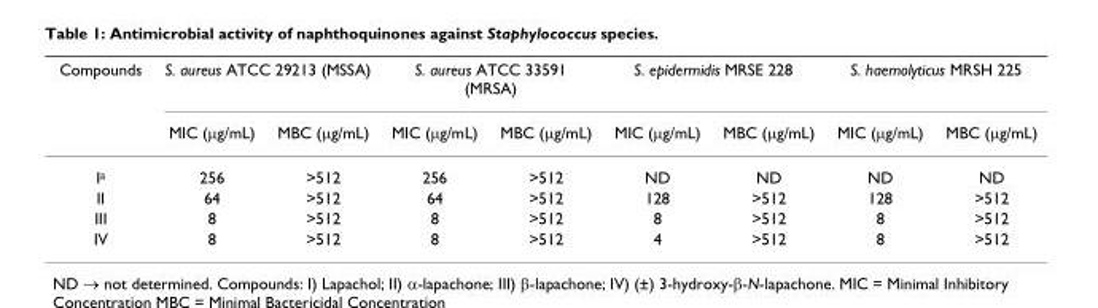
<table><thead><tr><td rowspan="2">Compounds</td><td colspan="2">S. aureus ATCC 29213 (MSSA)</td><td colspan="2">S. aureus ATCC 33591 (MRSA)</td><td colspan="2">S. epidermidis MRSE 228</td><td colspan="2">S. haemolyticus MRSH 225</td></tr><tr><td>MIC (µg/mL)</td><td>MBC (µg/mL)</td><td>MIC (µg/mL)</td><td>MBC (µg/mL)</td><td>MIC (µg/mL)</td><td>MBC (µg/mL)</td><td>MIC (µg/mL)</td><td>MBC (µg/mL)</td></tr></thead><tbody><tr><td>I<sup>a</sup></td><td>256</td><td>&gt;512</td><td>256</td><td>&gt;512</td><td>ND</td><td>ND</td><td>ND</td><td>ND</td></tr><tr><td>II</td><td>64</td><td>&gt;512</td><td>64</td><td>&gt;512</td><td>128</td><td>&gt;512</td><td>128</td><td>&gt;512</td></tr><tr><td>III</td><td>8</td><td>&gt;512</td><td>8</td><td>&gt;512</td><td>8</td><td>&gt;512</td><td>8</td><td>&gt;512</td></tr><tr><td>IV</td><td>8</td><td>&gt;512</td><td>8</td><td>&gt;512</td><td>4</td><td>&gt;512</td><td>8</td><td>&gt;512</td></tr></tbody></table>